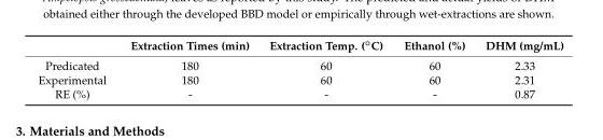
<table><thead><tr><td></td><td>Extraction Times (min)</td><td>Extraction Temp. (◦C)</td><td>Ethanol (%)</td><td>DHM (mg/mL)</td></tr></thead><tbody><tr><td>Predicated</td><td>180</td><td>60</td><td>60</td><td>2.33</td></tr><tr><td>Experimental</td><td>180</td><td>60</td><td>60</td><td>2.31</td></tr><tr><td>RE (%)</td><td>-</td><td>-</td><td>-</td><td>0.87</td></tr></tbody></table>